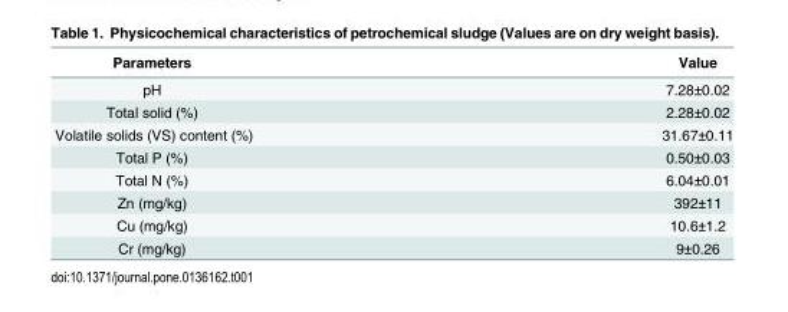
<table><thead><tr><td>Parameters</td><td>Value</td></tr></thead><tbody><tr><td>pH</td><td>7.28±0.02</td></tr><tr><td>Total solid (%)</td><td>2.28±0.02</td></tr><tr><td>Volatile solids (VS) content (%)</td><td>31.67±0.11</td></tr><tr><td>Total P (%)</td><td>0.50±0.03</td></tr><tr><td>Total N (%)</td><td>6.04±0.01</td></tr><tr><td>Zn (mg/kg)</td><td>392±11</td></tr><tr><td>Cu (mg/kg)</td><td>10.6±1.2</td></tr><tr><td>Cr (mg/kg)</td><td>9±0.26</td></tr></tbody></table>